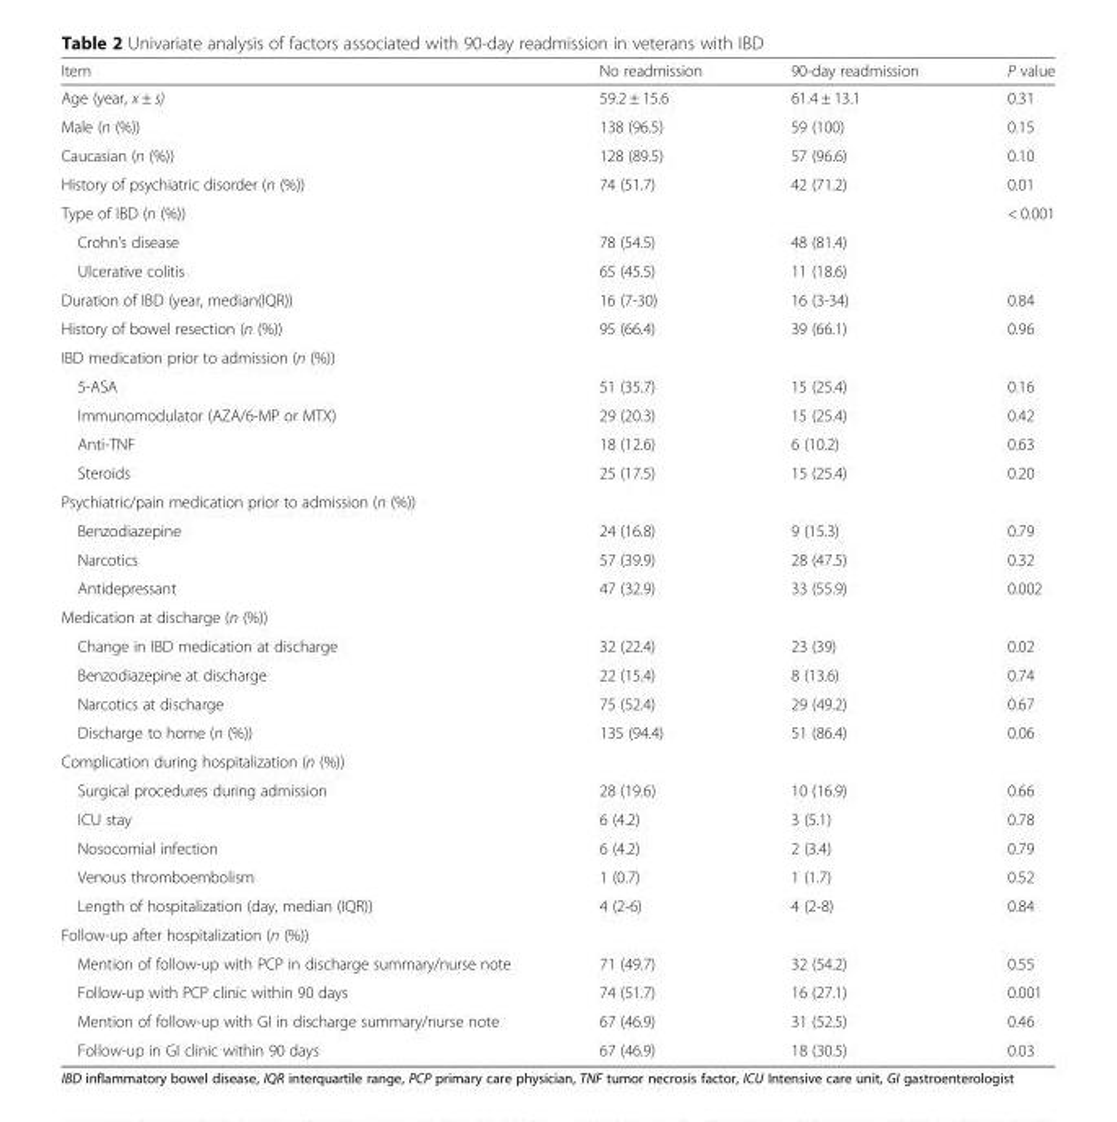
<table><thead><tr><td>Item</td><td>No readmission</td><td>90-day readmission</td><td>P value</td></tr></thead><tbody><tr><td>Age (year, x ± s)</td><td>59.2 ± 15.6</td><td>61.4 ± 13.1</td><td>0.31</td></tr><tr><td>Male (n (%))</td><td>138 (96.5)</td><td>59 (100)</td><td>0.15</td></tr><tr><td>Caucasian (n (%))</td><td>128 (89.5)</td><td>57 (96.6)</td><td>0.10</td></tr><tr><td>History of psychiatric disorder (n (%))</td><td>74 (51.7)</td><td>42 (71.2)</td><td>0.01</td></tr><tr><td>Type of IBD (n (%))</td><td></td><td></td><td>&lt; 0.001</td></tr><tr><td>Crohn’s disease</td><td>78 (54.5)</td><td>48 (81.4)</td><td></td></tr><tr><td>Ulcerative colitis</td><td>65 (45.5)</td><td>11 (18.6)</td><td></td></tr><tr><td>Duration of IBD (year, median(IQR))</td><td>16 (7-30)</td><td>16 (3-34)</td><td>0.84</td></tr><tr><td>History of bowel resection (n (%))</td><td>95 (66.4)</td><td>39 (66.1)</td><td>0.96</td></tr><tr><td colspan="4">IBD medication prior to admission (n (%))</td></tr><tr><td>5-ASA</td><td>51 (35.7)</td><td>15 (25.4)</td><td>0.16</td></tr><tr><td>Immunomodulator (AZA/6-MP or MTX)</td><td>29 (20.3)</td><td>15 (25.4)</td><td>0.42</td></tr><tr><td>Anti-TNF</td><td>18 (12.6)</td><td>6 (10.2)</td><td>0.63</td></tr><tr><td>Steroids</td><td>25 (17.5)</td><td>15 (25.4)</td><td>0.20</td></tr><tr><td colspan="4">Psychiatric/pain medication prior to admission (n (%))</td></tr><tr><td>Benzodiazepine</td><td>24 (16.8)</td><td>9 (15.3)</td><td>0.79</td></tr><tr><td>Narcotics</td><td>57 (39.9)</td><td>28 (47.5)</td><td>0.32</td></tr><tr><td>Antidepressant</td><td>47 (32.9)</td><td>33 (55.9)</td><td>0.002</td></tr><tr><td colspan="4">Medication at discharge (n (%))</td></tr><tr><td>Change in IBD medication at discharge</td><td>32 (22.4)</td><td>23 (39)</td><td>0.02</td></tr><tr><td>Benzodiazepine at discharge</td><td>22 (15.4)</td><td>8 (13.6)</td><td>0.74</td></tr><tr><td>Narcotics at discharge</td><td>75 (52.4)</td><td>29 (49.2)</td><td>0.67</td></tr><tr><td>Discharge to home (n (%))</td><td>135 (94.4)</td><td>51 (86.4)</td><td>0.06</td></tr><tr><td colspan="4">Complication during hospitalization (n (%))</td></tr><tr><td>Surgical procedures during admission</td><td>28 (19.6)</td><td>10 (16.9)</td><td>0.66</td></tr><tr><td>ICU stay</td><td>6 (4.2)</td><td>3 (5.1)</td><td>0.78</td></tr><tr><td>Nosocomial infection</td><td>6 (4.2)</td><td>2 (3.4)</td><td>0.79</td></tr><tr><td>Venous thromboembolism</td><td>1 (0.7)</td><td>1 (1.7)</td><td>0.52</td></tr><tr><td>Length of hospitalization (day, median (IQR))</td><td>4 (2-6)</td><td>4 (2-8)</td><td>0.84</td></tr><tr><td colspan="4">Follow-up after hospitalization (n (%))</td></tr><tr><td>Mention of follow-up with PCP in discharge summary/nurse note</td><td>71 (49.7)</td><td>32 (54.2)</td><td>0.55</td></tr><tr><td>Follow-up with PCP clinic within 90 days</td><td>74 (51.7)</td><td>16 (27.1)</td><td>0.001</td></tr><tr><td>Mention of follow-up with GI in discharge summary/nurse note</td><td>67 (46.9)</td><td>31 (52.5)</td><td>0.46</td></tr><tr><td>Follow-up in GI clinic within 90 days</td><td>67 (46.9)</td><td>18 (30.5)</td><td>0.03</td></tr></tbody></table>